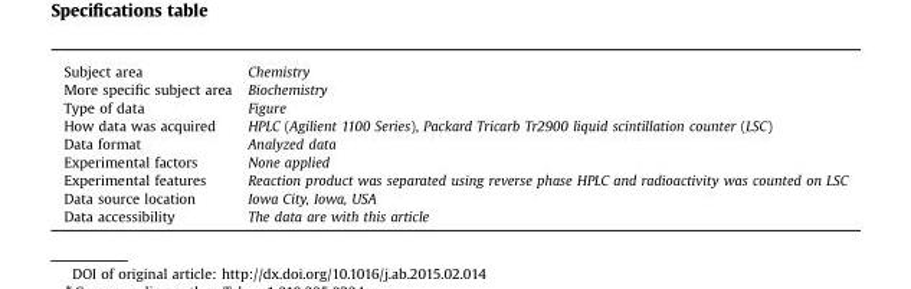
<table><tbody><tr><td>Subject area</td><td>Chemistry</td></tr><tr><td>More specific subject area</td><td>Biochemistry</td></tr><tr><td>Type of data</td><td>Figure</td></tr><tr><td>How data was acquired</td><td>HPLC (Agilient 1100 Series), Packard Tricarb Tr2900 liquid scintillation counter (LSC)</td></tr><tr><td>Data format</td><td>Analyzed data</td></tr><tr><td>Experimental factors</td><td>None applied</td></tr><tr><td>Experimental features</td><td>Reaction product was separated using reverse phase HPLC and radioactivity was counted on LSC</td></tr><tr><td>Data source location</td><td>Iowa City, Iowa, USA</td></tr><tr><td>Data accessibility</td><td>The data are with this article</td></tr></tbody></table>